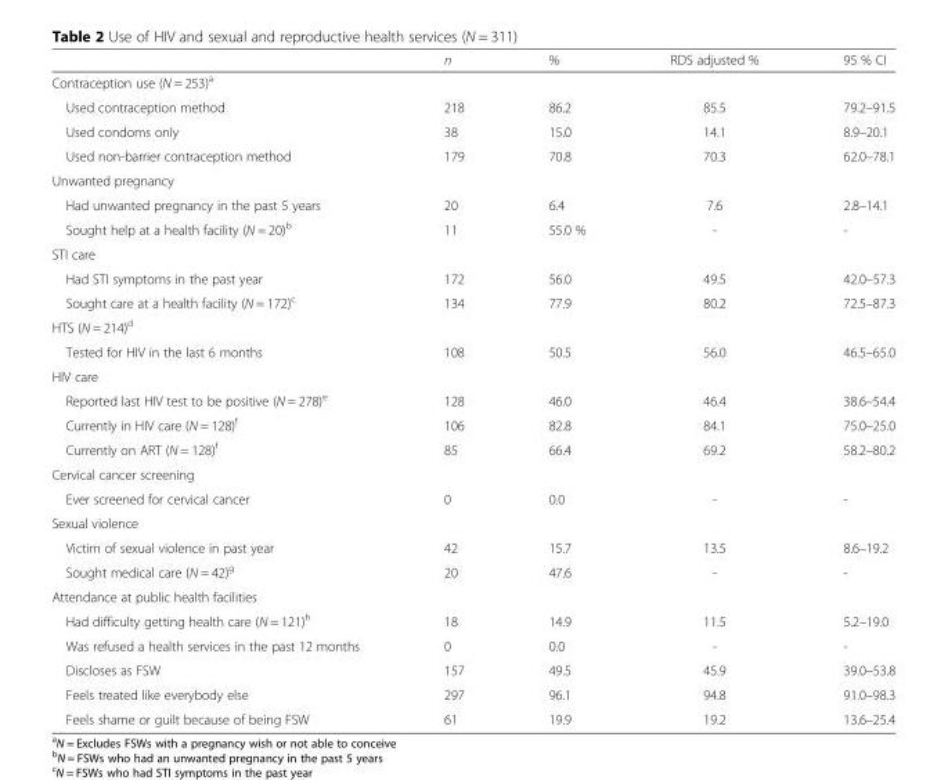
<table><thead><tr><td></td><td>n</td><td>%</td><td>RDS adjusted %</td><td>95 % CI</td></tr></thead><tbody><tr><td colspan="5">Contraception use (N = 253)<sup>a</sup></td></tr><tr><td>Used contraception method</td><td>218</td><td>86.2</td><td>85.5</td><td>79.2–91.5</td></tr><tr><td>Used condoms only</td><td>38</td><td>15.0</td><td>14.1</td><td>8.9–20.1</td></tr><tr><td>Used non-barrier contraception method</td><td>179</td><td>70.8</td><td>70.3</td><td>62.0–78.1</td></tr><tr><td colspan="5">Unwanted pregnancy</td></tr><tr><td>Had unwanted pregnancy in the past 5 years</td><td>20</td><td>6.4</td><td>7.6</td><td>2.8–14.1</td></tr><tr><td>Sought help at a health facility (N = 20)<sup>b</sup></td><td>11</td><td>55.0 %</td><td>-</td><td>-</td></tr><tr><td colspan="5">STI care</td></tr><tr><td>Had STI symptoms in the past year</td><td>172</td><td>56.0</td><td>49.5</td><td>42.0–57.3</td></tr><tr><td>Sought care at a health facility (N = 172)<sup>c</sup></td><td>134</td><td>77.9</td><td>80.2</td><td>72.5–87.3</td></tr><tr><td colspan="5">HTS (N = 214)<sup>d</sup></td></tr><tr><td>Tested for HIV in the last 6 months</td><td>108</td><td>50.5</td><td>56.0</td><td>46.5–65.0</td></tr><tr><td colspan="5">HIV care</td></tr><tr><td>Reported last HIV test to be positive (N = 278)<sup>e</sup></td><td>128</td><td>46.0</td><td>46.4</td><td>38.6–54.4</td></tr><tr><td>Currently in HIV care (N = 128)<sup>f</sup></td><td>106</td><td>82.8</td><td>84.1</td><td>75.0–25.0</td></tr><tr><td>Currently on ART (N = 128)<sup>f</sup></td><td>85</td><td>66.4</td><td>69.2</td><td>58.2–80.2</td></tr><tr><td colspan="5">Cervical cancer screening</td></tr><tr><td>Ever screened for cervical cancer</td><td>0</td><td>0.0</td><td>-</td><td>-</td></tr><tr><td colspan="5">Sexual violence</td></tr><tr><td>Victim of sexual violence in past year</td><td>42</td><td>15.7</td><td>13.5</td><td>8.6–19.2</td></tr><tr><td>Sought medical care (N = 42)<sup>g</sup></td><td>20</td><td>47.6</td><td>-</td><td>-</td></tr><tr><td colspan="5">Attendance at public health facilities</td></tr><tr><td>Had difficulty getting health care (N = 121)<sup>h</sup></td><td>18</td><td>14.9</td><td>11.5</td><td>5.2–19.0</td></tr><tr><td>Was refused a health services in the past 12 months</td><td>0</td><td>0.0</td><td>-</td><td>-</td></tr><tr><td>Discloses as FSW</td><td>157</td><td>49.5</td><td>45.9</td><td>39.0–53.8</td></tr><tr><td>Feels treated like everybody else</td><td>297</td><td>96.1</td><td>94.8</td><td>91.0–98.3</td></tr><tr><td>Feels shame or guilt because of being FSW</td><td>61</td><td>19.9</td><td>19.2</td><td>13.6–25.4</td></tr></tbody></table>